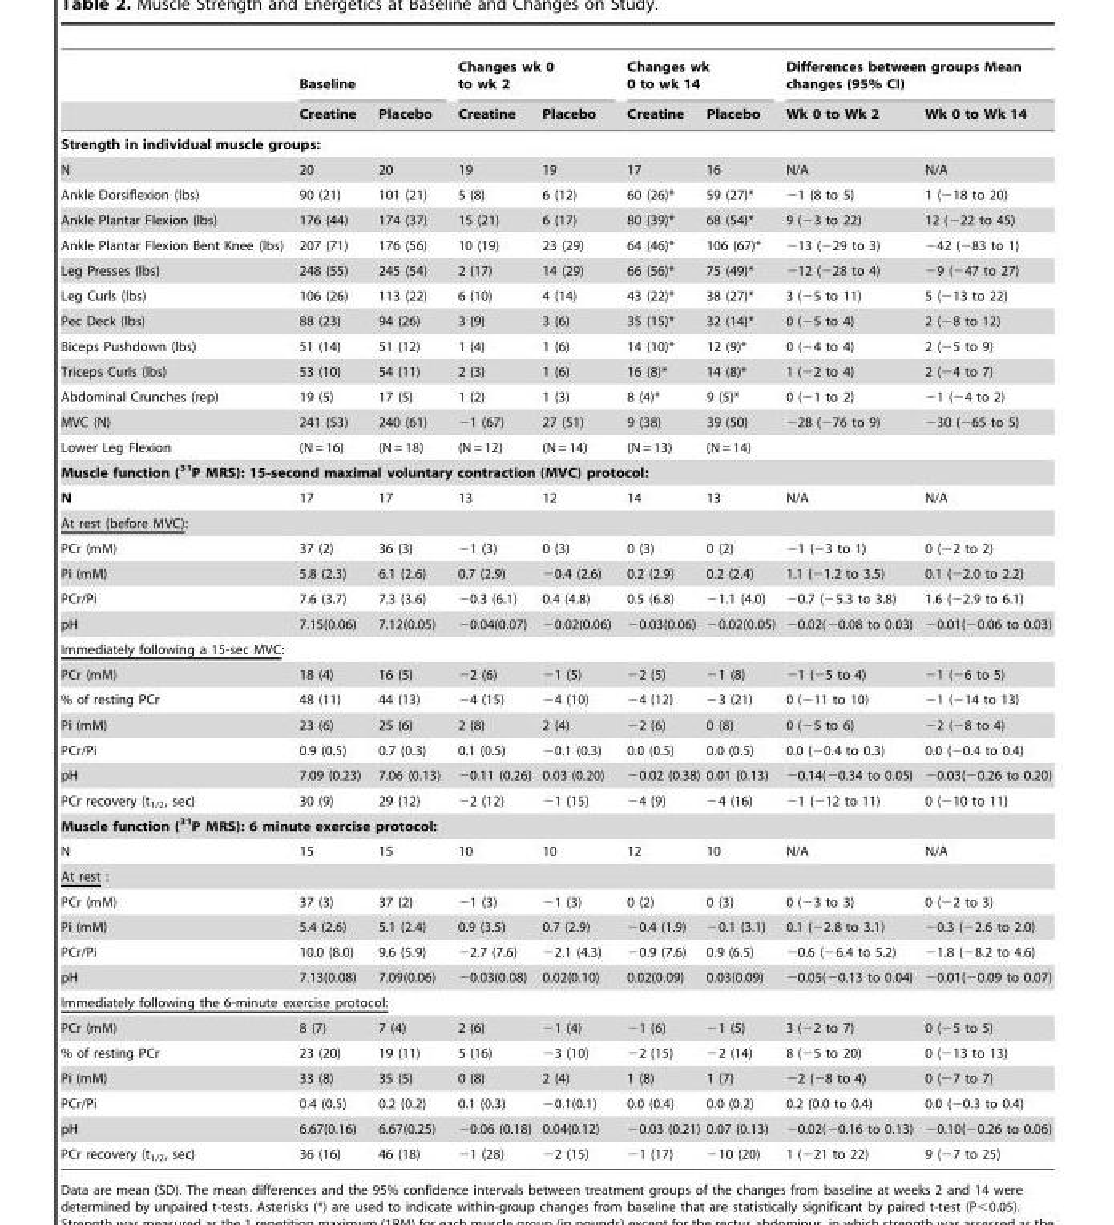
<table><thead><tr><td rowspan="2"></td><td colspan="2">Baseline</td><td colspan="2">Changes wk 0 to wk 2</td><td colspan="2">Changes wk 0 to wk 14</td><td colspan="2">Differences between groups Mean changes (95% CI)</td></tr><tr><td>Creatine</td><td>Placebo</td><td>Creatine</td><td>Placebo</td><td>Creatine</td><td>Placebo</td><td>Wk 0 to Wk 2</td><td>Wk 0 to Wk 14</td></tr></thead><tbody><tr><td colspan="9">Strength in individual muscle groups:</td></tr><tr><td>N</td><td>20</td><td>20</td><td>19</td><td>19</td><td>17</td><td>16</td><td>N/A</td><td>N/A</td></tr><tr><td>Ankle Dorsiflexion (lbs)</td><td>90 (21)</td><td>101 (21)</td><td>5 (8)</td><td>6 (12)</td><td>60 (26)*</td><td>59 (27)*</td><td>−1 (8 to 5)</td><td>1 (−18 to 20)</td></tr><tr><td>Ankle Plantar Flexion (lbs)</td><td>176 (44)</td><td>174 (37)</td><td>15 (21)</td><td>6 (17)</td><td>80 (39)*</td><td>68 (54)*</td><td>9 (−3 to 22)</td><td>12 (−22 to 45)</td></tr><tr><td>Ankle Plantar Flexion Bent Knee (lbs)</td><td>207 (71)</td><td>176 (56)</td><td>10 (19)</td><td>23 (29)</td><td>64 (46)*</td><td>106 (67)*</td><td>−13 (−29 to 3)</td><td>−42 (−83 to 1)</td></tr><tr><td>Leg Presses (lbs)</td><td>248 (55)</td><td>245 (54)</td><td>2 (17)</td><td>14 (29)</td><td>66 (56)*</td><td>75 (49)*</td><td>−12 (−28 to 4)</td><td>−9 (−47 to 27)</td></tr><tr><td>Leg Curls (lbs)</td><td>106 (26)</td><td>113 (22)</td><td>6 (10)</td><td>4 (14)</td><td>43 (22)*</td><td>38 (27)*</td><td>3 (−5 to 11)</td><td>5 (−13 to 22)</td></tr><tr><td>Pec Deck (lbs)</td><td>88 (23)</td><td>94 (26)</td><td>3 (9)</td><td>3 (6)</td><td>35 (15)*</td><td>32 (14)*</td><td>0 (−5 to 4)</td><td>2 (−8 to 12)</td></tr><tr><td>Biceps Pushdown (lbs)</td><td>51 (14)</td><td>51 (12)</td><td>1 (4)</td><td>1 (6)</td><td>14 (10)*</td><td>12 (9)*</td><td>0 (−4 to 4)</td><td>2 (−5 to 9)</td></tr><tr><td>Triceps Curls (lbs)</td><td>53 (10)</td><td>54 (11)</td><td>2 (3)</td><td>1 (6)</td><td>16 (8)*</td><td>14 (8)*</td><td>1 (−2 to 4)</td><td>2 (−4 to 7)</td></tr><tr><td>Abdominal Crunches (rep)</td><td>19 (5)</td><td>17 (5)</td><td>1 (2)</td><td>1 (3)</td><td>8 (4)*</td><td>9 (5)*</td><td>0 (−1 to 2)</td><td>−1 (−4 to 2)</td></tr><tr><td>MVC (N)</td><td>241 (53)</td><td>240 (61)</td><td>−1 (67)</td><td>27 (51)</td><td>9 (38)</td><td>39 (50)</td><td>−28 (−76 to 9)</td><td>−30 (−65 to 5)</td></tr><tr><td>Lower Leg Flexion</td><td>(N = 16)</td><td>(N = 18)</td><td>(N = 12)</td><td>(N = 14)</td><td>(N = 13)</td><td>(N = 14)</td><td></td><td></td></tr><tr><td colspan="9">Muscle function (<sup>31</sup>P MRS): 15-second maximal voluntary contraction (MVC) protocol:</td></tr><tr><td>N</td><td>17</td><td>17</td><td>13</td><td>12</td><td>14</td><td>13</td><td>N/A</td><td>N/A</td></tr><tr><td colspan="9">At rest (before MVC):</td></tr><tr><td>PCr (mM)</td><td>37 (2)</td><td>36 (3)</td><td>−1 (3)</td><td>0 (3)</td><td>0 (3)</td><td>0 (2)</td><td>−1 (−3 to 1)</td><td>0 (−2 to 2)</td></tr><tr><td>Pi (mM)</td><td>5.8 (2.3)</td><td>6.1 (2.6)</td><td>0.7 (2.9)</td><td>−0.4 (2.6)</td><td>0.2 (2.9)</td><td>0.2 (2.4)</td><td>1.1 (−1.2 to 3.5)</td><td>0.1 (−2.0 to 2.2)</td></tr><tr><td>PCr/Pi</td><td>7.6 (3.7)</td><td>7.3 (3.6)</td><td>−0.3 (6.1)</td><td>0.4 (4.8)</td><td>0.5 (6.8)</td><td>−1.1 (4.0)</td><td>−0.7 (−5.3 to 3.8)</td><td>1.6 (−2.9 to 6.1)</td></tr><tr><td>pH</td><td>7.15(0.06)</td><td>7.12(0.05)</td><td>−0.04(0.07)</td><td>−0.02(0.06)</td><td>−0.03(0.06)</td><td>−0.02(0.05)</td><td>−0.02(−0.08 to 0.03)</td><td>−0.01(−0.06 to 0.03)</td></tr><tr><td colspan="9">Immediately following a 15-sec MVC:</td></tr><tr><td>PCr (mM)</td><td>18 (4)</td><td>16 (5)</td><td>−2 (6)</td><td>−1 (5)</td><td>−2 (5)</td><td>−1 (8)</td><td>−1 (−5 to 4)</td><td>−1 (−6 to 5)</td></tr><tr><td>% of resting PCr</td><td>48 (11)</td><td>44 (13)</td><td>−4 (15)</td><td>−4 (10)</td><td>−4 (12)</td><td>−3 (21)</td><td>0 (−11 to 10)</td><td>−1 (−14 to 13)</td></tr><tr><td>Pi (mM)</td><td>23 (6)</td><td>25 (6)</td><td>2 (8)</td><td>2 (4)</td><td>−2 (6)</td><td>0 (8)</td><td>0 (−5 to 6)</td><td>−2 (−8 to 4)</td></tr><tr><td>PCr/Pi</td><td>0.9 (0.5)</td><td>0.7 (0.3)</td><td>0.1 (0.5)</td><td>−0.1 (0.3)</td><td>0.0 (0.5)</td><td>0.0 (0.5)</td><td>0.0 (−0.4 to 0.3)</td><td>0.0 (−0.4 to 0.4)</td></tr><tr><td>pH</td><td>7.09 (0.23)</td><td>7.06 (0.13)</td><td>−0.11 (0.26)</td><td>0.03 (0.20)</td><td>−0.02 (0.38)</td><td>0.01 (0.13)</td><td>−0.14(−0.34 to 0.05)</td><td>−0.03(−0.26 to 0.20)</td></tr><tr><td>PCr recovery (t<sub>1/2</sub>, sec)</td><td>30 (9)</td><td>29 (12)</td><td>−2 (12)</td><td>−1 (15)</td><td>−4 (9)</td><td>−4 (16)</td><td>−1 (−12 to 11)</td><td>0 (−10 to 11)</td></tr><tr><td colspan="9">Muscle function (<sup>31</sup>P MRS): 6 minute exercise protocol:</td></tr><tr><td>N</td><td>15</td><td>15</td><td>10</td><td>10</td><td>12</td><td>10</td><td>N/A</td><td>N/A</td></tr><tr><td colspan="9">At rest :</td></tr><tr><td>PCr (mM)</td><td>37 (3)</td><td>37 (2)</td><td>−1 (3)</td><td>−1 (3)</td><td>0 (2)</td><td>0 (3)</td><td>0 (−3 to 3)</td><td>0 (−2 to 3)</td></tr><tr><td>Pi (mM)</td><td>5.4 (2.6)</td><td>5.1 (2.4)</td><td>0.9 (3.5)</td><td>0.7 (2.9)</td><td>−0.4 (1.9)</td><td>−0.1 (3.1)</td><td>0.1 (−2.8 to 3.1)</td><td>−0.3 (−2.6 to 2.0)</td></tr><tr><td>PCr/Pi</td><td>10.0 (8.0)</td><td>9.6 (5.9)</td><td>−2.7 (7.6)</td><td>−2.1 (4.3)</td><td>−0.9 (7.6)</td><td>0.9 (6.5)</td><td>−0.6 (−6.4 to 5.2)</td><td>−1.8 (−8.2 to 4.6)</td></tr><tr><td>pH</td><td>7.13(0.08)</td><td>7.09(0.06)</td><td>−0.03(0.08)</td><td>0.02(0.10)</td><td>0.02(0.09)</td><td>0.03(0.09)</td><td>−0.05(−0.13 to 0.04)</td><td>−0.01(−0.09 to 0.07)</td></tr><tr><td colspan="9">Immediately following the 6-minute exercise protocol:</td></tr><tr><td>PCr (mM)</td><td>8 (7)</td><td>7 (4)</td><td>2 (6)</td><td>−1 (4)</td><td>−1 (6)</td><td>−1 (5)</td><td>3 (−2 to 7)</td><td>0 (−5 to 5)</td></tr><tr><td>% of resting PCr</td><td>23 (20)</td><td>19 (11)</td><td>5 (16)</td><td>−3 (10)</td><td>−2 (15)</td><td>−2 (14)</td><td>8 (−5 to 20)</td><td>0 (−13 to 13)</td></tr><tr><td>Pi (mM)</td><td>33 (8)</td><td>35 (5)</td><td>0 (8)</td><td>2 (4)</td><td>1 (8)</td><td>1 (7)</td><td>−2 (−8 to 4)</td><td>0 (−7 to 7)</td></tr><tr><td>PCr/Pi</td><td>0.4 (0.5)</td><td>0.2 (0.2)</td><td>0.1 (0.3)</td><td>−0.1(0.1)</td><td>0.0 (0.4)</td><td>0.0 (0.2)</td><td>0.2 (0.0 to 0.4)</td><td>0.0 (−0.3 to 0.4)</td></tr><tr><td>pH</td><td>6.67(0.16)</td><td>6.67(0.25)</td><td>−0.06 (0.18)</td><td>0.04(0.12)</td><td>−0.03 (0.21)</td><td>0.07 (0.13)</td><td>−0.02(−0.16 to 0.13)</td><td>−0.10(−0.26 to 0.06)</td></tr><tr><td>PCr recovery (t<sub>1/2</sub>, sec)</td><td>36 (16)</td><td>46 (18)</td><td>−1 (28)</td><td>−2 (15)</td><td>−1 (17)</td><td>−10 (20)</td><td>1 (−21 to 22)</td><td>9 (−7 to 25)</td></tr></tbody></table>